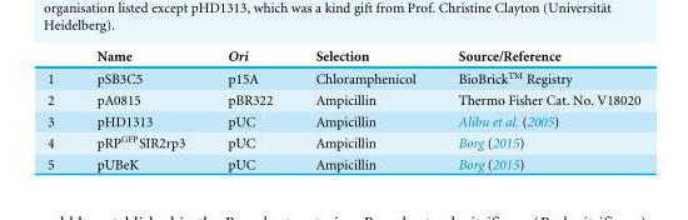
<table><thead><tr><td></td><td>Name</td><td>Ori</td><td>Selection</td><td>Source/Reference</td></tr></thead><tbody><tr><td>1</td><td>pSB3C5</td><td>p15A</td><td>Chloramphenicol</td><td>BioBrickTM Registry</td></tr><tr><td>2</td><td>pA0815</td><td>pBR322</td><td>Ampicillin</td><td>Thermo Fisher Cat. No. V18020</td></tr><tr><td>3</td><td>pHD1313</td><td>pUC</td><td>Ampicillin</td><td>Alibu et al. (2005)</td></tr><tr><td>4</td><td>pRP<sup>GFP</sup>SIR2rp3</td><td>pUC</td><td>Ampicillin</td><td>Borg (2015)</td></tr><tr><td>5</td><td>pUBeK</td><td>pUC</td><td>Ampicillin</td><td>Borg (2015)</td></tr></tbody></table>